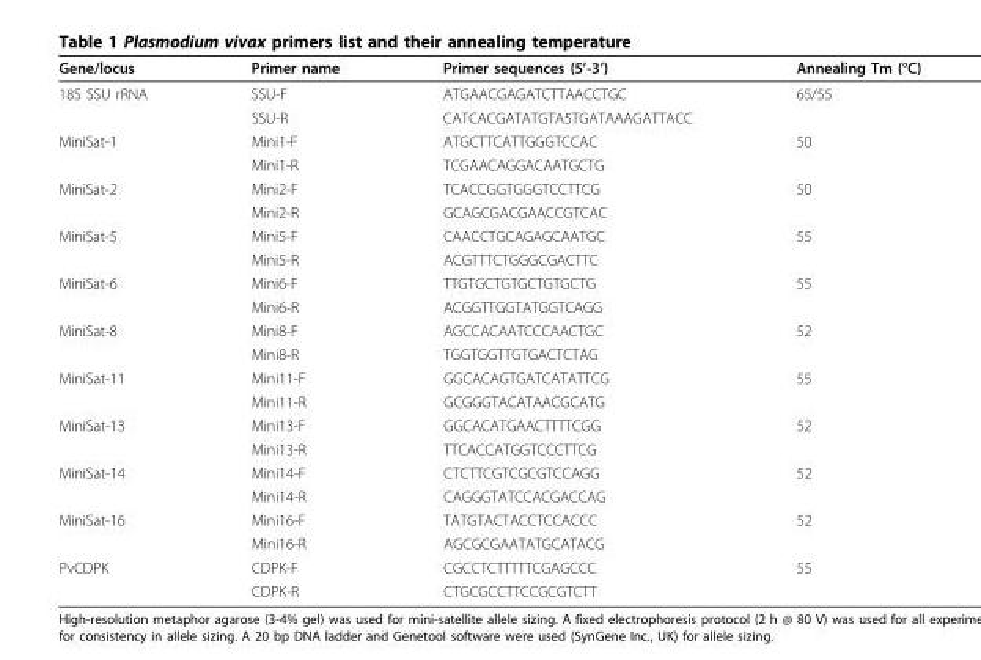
<table><thead><tr><td>Gene/locus</td><td>Primer name</td><td>Primer sequences (5’-3’)</td><td>Annealing Tm (°C)</td></tr></thead><tbody><tr><td rowspan="2">18S SSU rRNA</td><td>SSU-F</td><td>ATGAACGAGATCTTAACCTGC</td><td>65/55</td></tr><tr><td>SSU-R</td><td>CATCACGATATGTA5TGATAAAGATTACC</td><td></td></tr><tr><td rowspan="2">MiniSat-1</td><td>Mini1-F</td><td>ATGCTTCATTGGGTCCAC</td><td>50</td></tr><tr><td>Mini1-R</td><td>TCGAACAGGACAATGCTG</td><td></td></tr><tr><td rowspan="2">MiniSat-2</td><td>Mini2-F</td><td>TCACCGGTGGGTCCTTCG</td><td>50</td></tr><tr><td>Mini2-R</td><td>GCAGCGACGAACCGTCAC</td><td></td></tr><tr><td rowspan="2">MiniSat-5</td><td>Mini5-F</td><td>CAACCTGCAGAGCAATGC</td><td>55</td></tr><tr><td>Mini5-R</td><td>ACGTTTCTGGGCGACTTC</td><td></td></tr><tr><td rowspan="2">MiniSat-6</td><td>Mini6-F</td><td>TTGTGCTGTGCTGTGCTG</td><td>55</td></tr><tr><td>Mini6-R</td><td>ACGGTTGGTATGGTCAGG</td><td></td></tr><tr><td rowspan="2">MiniSat-8</td><td>Mini8-F</td><td>AGCCACAATCCCAACTGC</td><td>52</td></tr><tr><td>Mini8-R</td><td>TGGTGGTTGTGACTCTAG</td><td></td></tr><tr><td rowspan="2">MiniSat-11</td><td>Mini11-F</td><td>GGCACAGTGATCATATTCG</td><td>55</td></tr><tr><td>Mini11-R</td><td>GCGGGTACATAACGCATG</td><td></td></tr><tr><td rowspan="2">MiniSat-13</td><td>Mini13-F</td><td>GGCACATGAACTTTTCGG</td><td>52</td></tr><tr><td>Mini13-R</td><td>TTCACCATGGTCCCTTCG</td><td></td></tr><tr><td rowspan="2">MiniSat-14</td><td>Mini14-F</td><td>CTCTTCGTCGCGTCCAGG</td><td>52</td></tr><tr><td>Mini14-R</td><td>CAGGGTATCCACGACCAG</td><td></td></tr><tr><td rowspan="2">MiniSat-16</td><td>Mini16-F</td><td>TATGTACTACCTCCACCC</td><td>52</td></tr><tr><td>Mini16-R</td><td>AGCGCGAATATGCATACG</td><td></td></tr><tr><td rowspan="2">PvCDPK</td><td>CDPK-F</td><td>CGCCTCTTTTTCGAGCCC</td><td>55</td></tr><tr><td>CDPK-R</td><td>CTGCGCCTTCCGCGTCTT</td><td></td></tr></tbody></table>